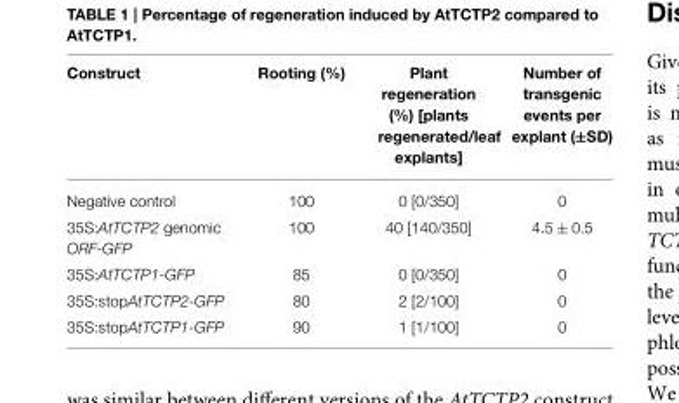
<table><thead><tr><td>Construct</td><td>Rooting (%)</td><td>Plant regeneration (%) [plants regenerated/leaf explants]</td><td>Number of transgenic events per explant (±SD)</td></tr></thead><tbody><tr><td>Negative control</td><td>100</td><td>0 [0/350]</td><td>0</td></tr><tr><td>35S:AtTCTP2 genomic ORF-GFP</td><td>100</td><td>40 [140/350]</td><td>4.5 ± 0.5</td></tr><tr><td>35S:AtTCTP1-GFP</td><td>85</td><td>0 [0/350]</td><td>0</td></tr><tr><td>35S:stopAtTCTP2-GFP</td><td>80</td><td>2 [2/100]</td><td>0</td></tr><tr><td>35S:stopAtTCTP1-GFP</td><td>90</td><td>1 [1/100]</td><td>0</td></tr></tbody></table>